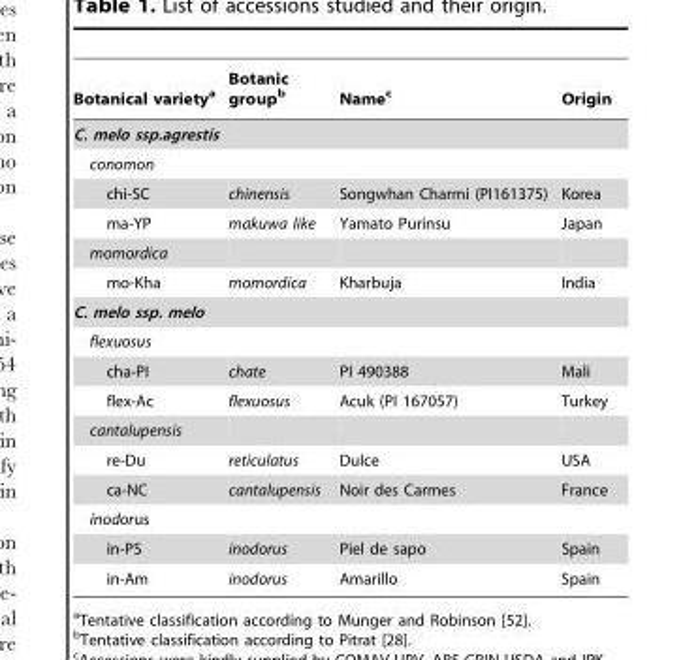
<table><thead><tr><td>Botanical variety<sup>a</sup></td><td>Botanic group<sup>b</sup></td><td>Name<sup>c</sup></td><td>Origin</td></tr></thead><tbody><tr><td colspan="4">C. melo ssp.agrestis</td></tr><tr><td colspan="4">conomon</td></tr><tr><td>chi-SC</td><td>chinensis</td><td>Songwhan Charmi (PI161375)</td><td>Korea</td></tr><tr><td>ma-YP</td><td>makuwa like</td><td>Yamato Purinsu</td><td>Japan</td></tr><tr><td colspan="4">momordica</td></tr><tr><td>mo-Kha</td><td>momordica</td><td>Kharbuja</td><td>India</td></tr><tr><td colspan="4">C. melo ssp. melo</td></tr><tr><td colspan="4">flexuosus</td></tr><tr><td>cha-PI</td><td>chate</td><td>PI 490388</td><td>Mali</td></tr><tr><td>flex-Ac</td><td>flexuosus</td><td>Acuk (PI 167057)</td><td>Turkey</td></tr><tr><td colspan="4">cantalupensis</td></tr><tr><td>re-Du</td><td>reticulatus</td><td>Dulce</td><td>USA</td></tr><tr><td>ca-NC</td><td>cantalupensis</td><td>Noir des Carmes</td><td>France</td></tr><tr><td colspan="4">inodorus</td></tr><tr><td>in-PS</td><td>inodorus</td><td>Piel de sapo</td><td>Spain</td></tr><tr><td>in-Am</td><td>inodorus</td><td>Amarillo</td><td>Spain</td></tr></tbody></table>